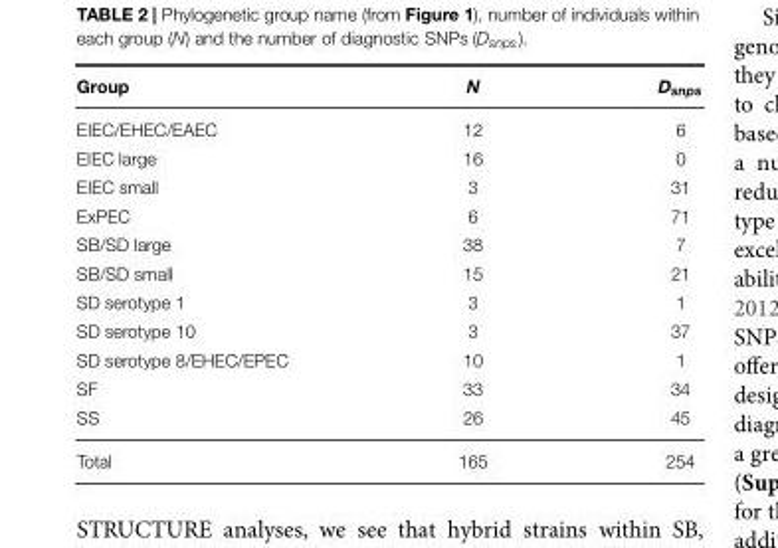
<table><thead><tr><td>Group</td><td>N</td><td>D<sub>snps</sub></td></tr></thead><tbody><tr><td>EIEC/EHEC/EAEC</td><td>12</td><td>6</td></tr><tr><td>EIEC large</td><td>16</td><td>0</td></tr><tr><td>EIEC small</td><td>3</td><td>31</td></tr><tr><td>ExPEC</td><td>6</td><td>71</td></tr><tr><td>SB/SD large</td><td>38</td><td>7</td></tr><tr><td>SB/SD small</td><td>15</td><td>21</td></tr><tr><td>SD serotype 1</td><td>3</td><td>1</td></tr><tr><td>SD serotype 10</td><td>3</td><td>37</td></tr><tr><td>SD serotype 8/EHEC/EPEC</td><td>10</td><td>1</td></tr><tr><td>SF</td><td>33</td><td>34</td></tr><tr><td>SS</td><td>26</td><td>45</td></tr><tr><td>Total</td><td>165</td><td>254</td></tr></tbody></table>